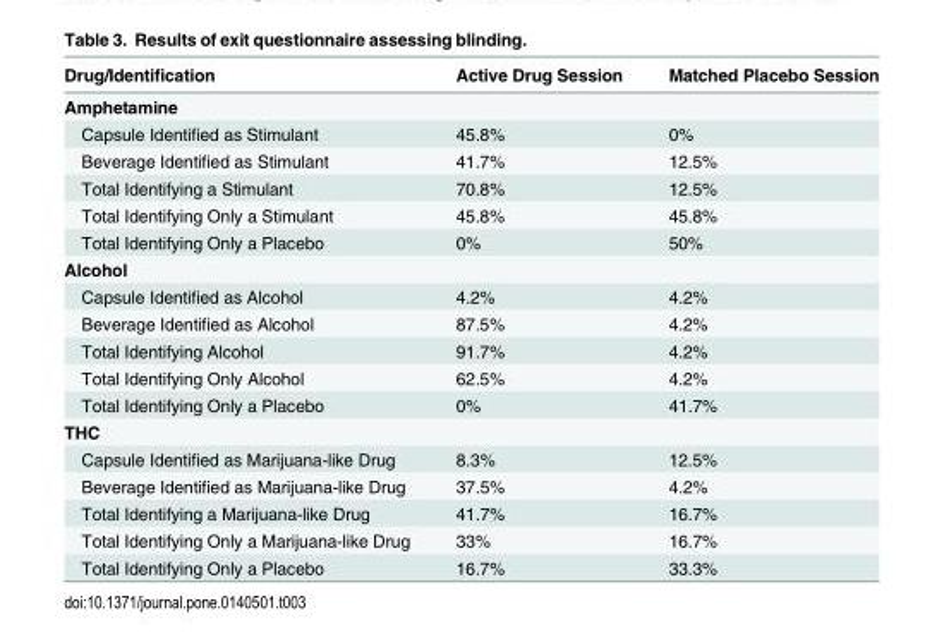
<table><thead><tr><td>Drug/Identification</td><td>Active Drug Session</td><td>Matched Placebo Session</td></tr></thead><tbody><tr><td colspan="3">Amphetamine</td></tr><tr><td>Capsule Identified as Stimulant</td><td>45.8%</td><td>0%</td></tr><tr><td>Beverage Identified as Stimulant</td><td>41.7%</td><td>12.5%</td></tr><tr><td>Total Identifying a Stimulant</td><td>70.8%</td><td>12.5%</td></tr><tr><td>Total Identifying Only a Stimulant</td><td>45.8%</td><td>45.8%</td></tr><tr><td>Total Identifying Only a Placebo</td><td>0%</td><td>50%</td></tr><tr><td colspan="3">Alcohol</td></tr><tr><td>Capsule Identified as Alcohol</td><td>4.2%</td><td>4.2%</td></tr><tr><td>Beverage Identified as Alcohol</td><td>87.5%</td><td>4.2%</td></tr><tr><td>Total Identifying Alcohol</td><td>91.7%</td><td>4.2%</td></tr><tr><td>Total Identifying Only Alcohol</td><td>62.5%</td><td>4.2%</td></tr><tr><td>Total Identifying Only a Placebo</td><td>0%</td><td>41.7%</td></tr><tr><td colspan="3">THC</td></tr><tr><td>Capsule Identified as Marijuana-like Drug</td><td>8.3%</td><td>12.5%</td></tr><tr><td>Beverage Identified as Marijuana-like Drug</td><td>37.5%</td><td>4.2%</td></tr><tr><td>Total Identifying a Marijuana-like Drug</td><td>41.7%</td><td>16.7%</td></tr><tr><td>Total Identifying Only a Marijuana-like Drug</td><td>33%</td><td>16.7%</td></tr><tr><td>Total Identifying Only a Placebo</td><td>16.7%</td><td>33.3%</td></tr></tbody></table>